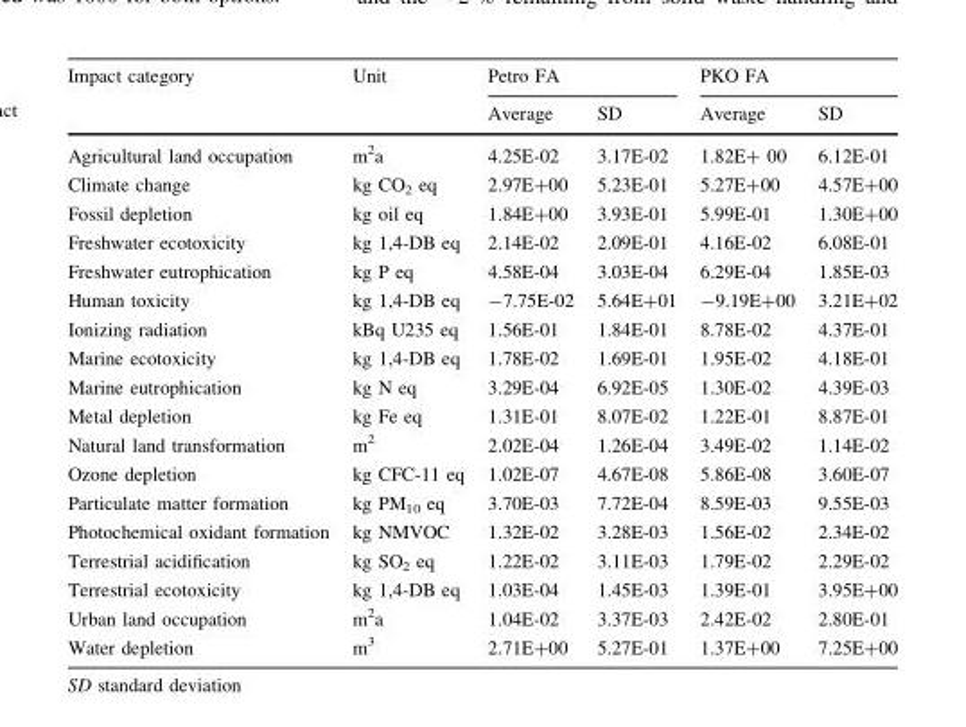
<table><thead><tr><td rowspan="2">Impact category</td><td rowspan="2">Unit</td><td colspan="2">Petro FA</td><td colspan="2">PKO FA</td></tr><tr><td>Average</td><td>SD</td><td>Average</td><td>SD</td></tr></thead><tbody><tr><td>Agricultural land occupation</td><td>m<sup>2</sup>a</td><td>4.25E-02</td><td>3.17E-02</td><td>1.82E+ 00</td><td>6.12E-01</td></tr><tr><td>Climate change</td><td>kg CO<sub>2</sub> eq</td><td>2.97E+00</td><td>5.23E-01</td><td>5.27E+00</td><td>4.57E+00</td></tr><tr><td>Fossil depletion</td><td>kg oil eq</td><td>1.84E+00</td><td>3.93E-01</td><td>5.99E-01</td><td>1.30E+00</td></tr><tr><td>Freshwater ecotoxicity</td><td>kg 1,4-DB eq</td><td>2.14E-02</td><td>2.09E-01</td><td>4.16E-02</td><td>6.08E-01</td></tr><tr><td>Freshwater eutrophication</td><td>kg P eq</td><td>4.58E-04</td><td>3.03E-04</td><td>6.29E-04</td><td>1.85E-03</td></tr><tr><td>Human toxicity</td><td>kg 1,4-DB eq</td><td>-7.75E-02</td><td>5.64E+01</td><td>-9.19E+00</td><td>3.21E+02</td></tr><tr><td>Ionizing radiation</td><td>kBq U235 eq</td><td>1.56E-01</td><td>1.84E-01</td><td>8.78E-02</td><td>4.37E-01</td></tr><tr><td>Marine ecotoxicity</td><td>kg 1,4-DB eq</td><td>1.78E-02</td><td>1.69E-01</td><td>1.95E-02</td><td>4.18E-01</td></tr><tr><td>Marine eutrophication</td><td>kg N eq</td><td>3.29E-04</td><td>6.92E-05</td><td>1.30E-02</td><td>4.39E-03</td></tr><tr><td>Metal depletion</td><td>kg Fe eq</td><td>1.31E-01</td><td>8.07E-02</td><td>1.22E-01</td><td>8.87E-01</td></tr><tr><td>Natural land transformation</td><td>m<sup>2</sup></td><td>2.02E-04</td><td>1.26E-04</td><td>3.49E-02</td><td>1.14E-02</td></tr><tr><td>Ozone depletion</td><td>kg CFC-11 eq</td><td>1.02E-07</td><td>4.67E-08</td><td>5.86E-08</td><td>3.60E-07</td></tr><tr><td>Particulate matter formation</td><td>kg PM<sub>10</sub> eq</td><td>3.70E-03</td><td>7.72E-04</td><td>8.59E-03</td><td>9.55E-03</td></tr><tr><td>Photochemical oxidant formation</td><td>kg NMVOC</td><td>1.32E-02</td><td>3.28E-03</td><td>1.56E-02</td><td>2.34E-02</td></tr><tr><td>Terrestrial acidification</td><td>kg SO<sub>2</sub> eq</td><td>1.22E-02</td><td>3.11E-03</td><td>1.79E-02</td><td>2.29E-02</td></tr><tr><td>Terrestrial ecotoxicity</td><td>kg 1,4-DB eq</td><td>1.03E-04</td><td>1.45E-03</td><td>1.39E-01</td><td>3.95E+00</td></tr><tr><td>Urban land occupation</td><td>m<sup>2</sup>a</td><td>1.04E-02</td><td>3.37E-03</td><td>2.42E-02</td><td>2.80E-01</td></tr><tr><td>Water depletion</td><td>m<sup>3</sup></td><td>2.71E+00</td><td>5.27E-01</td><td>1.37E+00</td><td>7.25E+00</td></tr></tbody></table>